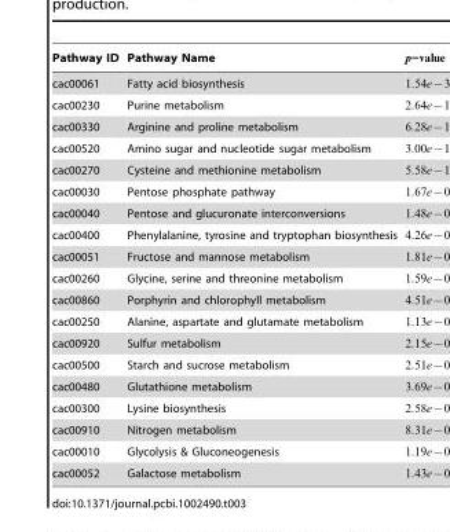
<table><thead><tr><td>Pathway ID</td><td>Pathway Name</td></tr></thead><tbody><tr><td>cac00061</td><td>Fatty acid biosynthesis</td></tr><tr><td>cac00230</td><td>Purine metabolism</td></tr><tr><td>cac00330</td><td>Arginine and proline metabolism</td></tr><tr><td>cac00520</td><td>Amino sugar and nucleotide sugar metabolism</td></tr><tr><td>cac00270</td><td>Cysteine and methionine metabolism</td></tr><tr><td>cac00030</td><td>Pentose phosphate pathway</td></tr><tr><td>cac00040</td><td>Pentose and glucuronate interconversions</td></tr><tr><td>cac00400</td><td>Phenylalanine, tyrosine and tryptophan biosynthesis</td></tr><tr><td>cac00051</td><td>Fructose and mannose metabolism</td></tr><tr><td>cac00260</td><td>Glycine, serine and threonine metabolism</td></tr><tr><td>cac00860</td><td>Porphyrin and chlorophyll metabolism</td></tr><tr><td>cac00250</td><td>Alanine, aspartate and glutamate metabolism</td></tr><tr><td>cac00920</td><td>Sulfur metabolism</td></tr><tr><td>cac00500</td><td>Starch and sucrose metabolism</td></tr><tr><td>cac00480</td><td>Glutathione metabolism</td></tr><tr><td>cac00300</td><td>Lysine biosynthesis</td></tr><tr><td>cac00910</td><td>Nitrogen metabolism</td></tr><tr><td>cac00010</td><td>Glycolysis &amp; Gluconeogenesis</td></tr><tr><td>cac00052</td><td>Galactose metabolism</td></tr></tbody></table>